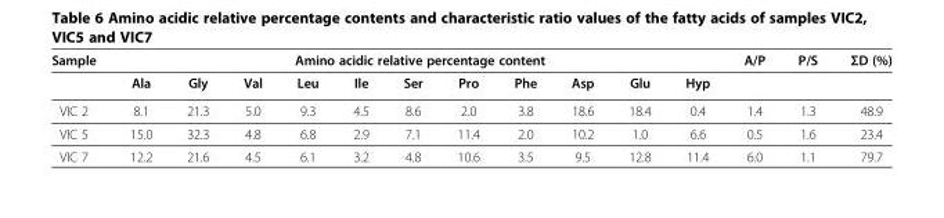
<table><thead><tr><td rowspan="2">Sample</td><td colspan="11">Amino acidic relative percentage content</td><td rowspan="2">A/P</td><td rowspan="2">P/S</td><td rowspan="2">ΣD (%)</td></tr><tr><td>Ala</td><td>Gly</td><td>Val</td><td>Leu</td><td>Ile</td><td>Ser</td><td>Pro</td><td>Phe</td><td>Asp</td><td>Glu</td><td>Hyp</td></tr></thead><tbody><tr><td>VIC 2</td><td>8.1</td><td>21.3</td><td>5.0</td><td>9.3</td><td>4.5</td><td>8.6</td><td>2.0</td><td>3.8</td><td>18.6</td><td>18.4</td><td>0.4</td><td>1.4</td><td>1.3</td><td>48.9</td></tr><tr><td>VIC 5</td><td>15.0</td><td>32.3</td><td>4.8</td><td>6.8</td><td>2.9</td><td>7.1</td><td>11.4</td><td>2.0</td><td>10.2</td><td>1.0</td><td>6.6</td><td>0.5</td><td>1.6</td><td>23.4</td></tr><tr><td>VIC 7</td><td>12.2</td><td>21.6</td><td>4.5</td><td>6.1</td><td>3.2</td><td>4.8</td><td>10.6</td><td>3.5</td><td>9.5</td><td>12.8</td><td>11.4</td><td>6.0</td><td>1.1</td><td>79.7</td></tr></tbody></table>